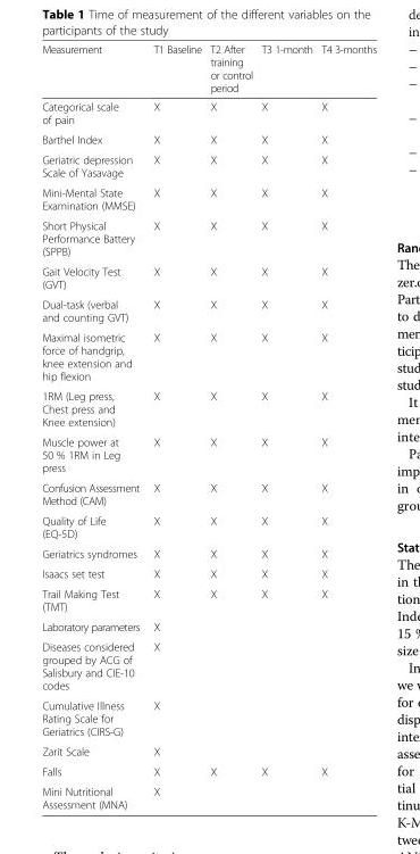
<table><thead><tr><td>Measurement</td><td>T1 Baseline</td><td>T2 After training or control period</td><td>T3 1-month</td><td>T4 3-months</td></tr></thead><tbody><tr><td>Categorical scale of pain</td><td>X</td><td>X</td><td>X</td><td>X</td></tr><tr><td>Barthel Index</td><td>X</td><td>X</td><td>X</td><td>X</td></tr><tr><td>Geriatric depression Scale of Yasavage</td><td>X</td><td>X</td><td>X</td><td>X</td></tr><tr><td>Mini-Mental State Examination (MMSE)</td><td>X</td><td>X</td><td>X</td><td>X</td></tr><tr><td>Short Physical Performance Battery (SPPB)</td><td>X</td><td>X</td><td>X</td><td>X</td></tr><tr><td>Gait Velocity Test (GVT)</td><td>X</td><td>X</td><td>X</td><td>X</td></tr><tr><td>Dual-task (verbal and counting GVT)</td><td>X</td><td>X</td><td>X</td><td>X</td></tr><tr><td>Maximal isometric force of handgrip, knee extension and hip flexion</td><td>X</td><td>X</td><td>X</td><td>X</td></tr><tr><td>1RM (Leg press, Chest press and Knee extension)</td><td>X</td><td>X</td><td>X</td><td>X</td></tr><tr><td>Muscle power at 50 % 1RM in Leg press</td><td>X</td><td>X</td><td>X</td><td>X</td></tr><tr><td>Confusion Assessment Method (CAM)</td><td>X</td><td>X</td><td>X</td><td>X</td></tr><tr><td>Quality of Life (EQ-5D)</td><td>X</td><td>X</td><td>X</td><td>X</td></tr><tr><td>Geriatrics syndromes</td><td>X</td><td>X</td><td>X</td><td>X</td></tr><tr><td>Isaacs set test</td><td>X</td><td>X</td><td>X</td><td>X</td></tr><tr><td>Trail Making Test (TMT)</td><td>X</td><td>X</td><td>X</td><td>X</td></tr><tr><td>Laboratory parameters</td><td>X</td><td></td><td></td><td></td></tr><tr><td>Diseases considered grouped by ACG of Salisbury and CIE-10 codes</td><td>X</td><td></td><td></td><td></td></tr><tr><td>Cumulative Illness Rating Scale for Geriatrics (CIRS-G)</td><td>X</td><td></td><td></td><td></td></tr><tr><td>Zarit Scale</td><td>X</td><td></td><td></td><td></td></tr><tr><td>Falls</td><td>X</td><td>X</td><td>X</td><td>X</td></tr><tr><td>Mini Nutritional Assessment (MNA)</td><td>X</td><td></td><td></td><td></td></tr></tbody></table>